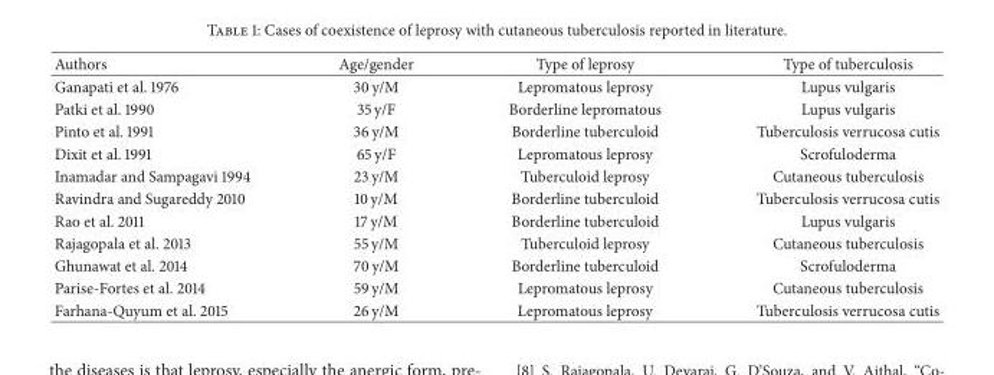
<table><thead><tr><td>Authors</td><td>Age/gender</td><td>Type of leprosy</td><td>Type of tuberculosis</td></tr></thead><tbody><tr><td>Ganapati et al. 1976</td><td>30 y/M</td><td>Lepromatous leprosy</td><td>Lupus vulgaris</td></tr><tr><td>Patki et al. 1990</td><td>35 y/F</td><td>Borderline lepromatous</td><td>Lupus vulgaris</td></tr><tr><td>Pinto et al. 1991</td><td>36 y/M</td><td>Borderline tuberculoid</td><td>Tuberculosis verrucosa cutis</td></tr><tr><td>Dixit et al. 1991</td><td>65 y/F</td><td>Lepromatous leprosy</td><td>Scrofuloderma</td></tr><tr><td>Inamadar and Sampagavi 1994</td><td>23 y/M</td><td>Tuberculoid leprosy</td><td>Cutaneous tuberculosis</td></tr><tr><td>Ravindra and Sugareddy 2010</td><td>10 y/M</td><td>Borderline tuberculoid</td><td>Tuberculosis verrucosa cutis</td></tr><tr><td>Rao et al. 2011</td><td>17 y/M</td><td>Borderline tuberculoid</td><td>Lupus vulgaris</td></tr><tr><td>Rajagopala et al. 2013</td><td>55 y/M</td><td>Tuberculoid leprosy</td><td>Cutaneous tuberculosis</td></tr><tr><td>Ghunawat et al. 2014</td><td>70 y/M</td><td>Borderline tuberculoid</td><td>Scrofuloderma</td></tr><tr><td>Parise-Fortes et al. 2014</td><td>59 y/M</td><td>Lepromatous leprosy</td><td>Cutaneous tuberculosis</td></tr><tr><td>Farhana-Quyum et al. 2015</td><td>26 y/M</td><td>Lepromatous leprosy</td><td>Tuberculosis verrucosa cutis</td></tr></tbody></table>